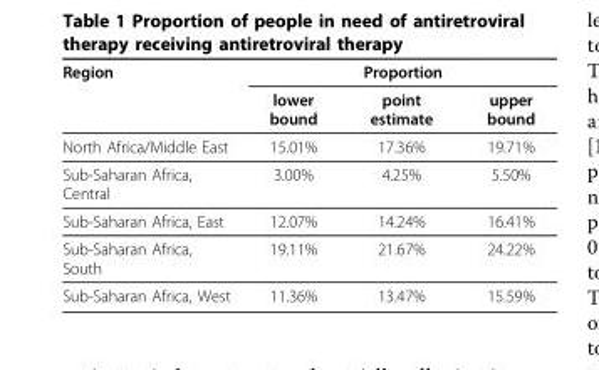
<table><thead><tr><td rowspan="2">Region</td><td colspan="3">Proportion</td></tr><tr><td>lower bound</td><td>point estimate</td><td>upper bound</td></tr></thead><tbody><tr><td>North Africa/Middle East</td><td>15.01%</td><td>17.36%</td><td>19.71%</td></tr><tr><td>Sub-Saharan Africa, Central</td><td>3.00%</td><td>4.25%</td><td>5.50%</td></tr><tr><td>Sub-Saharan Africa, East</td><td>12.07%</td><td>14.24%</td><td>16.41%</td></tr><tr><td>Sub-Saharan Africa, South</td><td>19.11%</td><td>21.67%</td><td>24.22%</td></tr><tr><td>Sub-Saharan Africa, West</td><td>11.36%</td><td>13.47%</td><td>15.59%</td></tr></tbody></table>